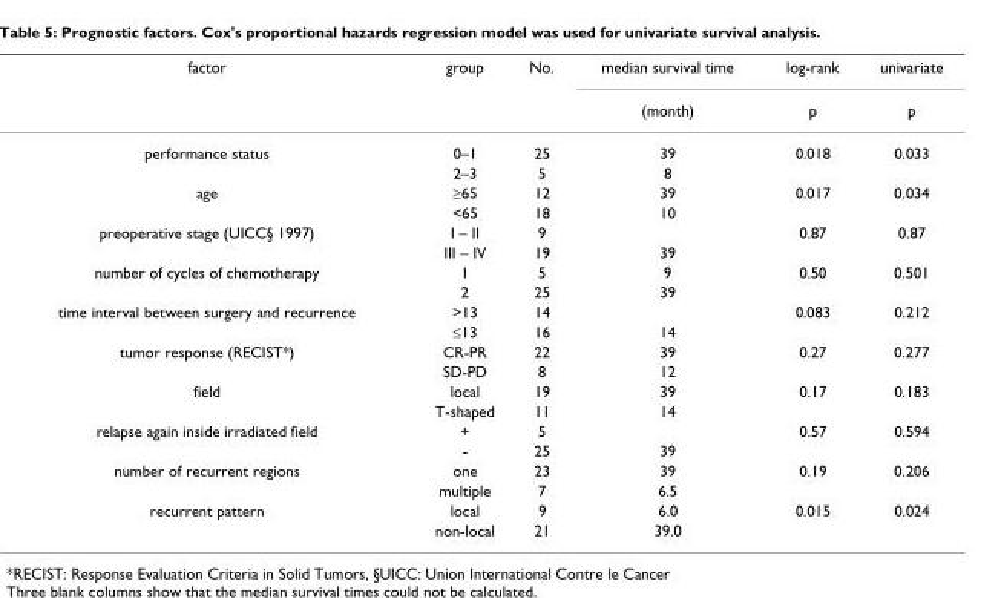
<table><thead><tr><td rowspan="2">factor</td><td rowspan="2">group</td><td rowspan="2">No.</td><td rowspan="2">median survival time (month)</td><td rowspan="2">log-rank p</td><td rowspan="2">univariate p</td></tr><tr></tr></thead><tbody><tr><td rowspan="2">performance status</td><td>0–1</td><td>25</td><td>39</td><td>0.018</td><td>0.033</td></tr><tr><td>2–3</td><td>5</td><td>8</td><td></td><td></td></tr><tr><td rowspan="2">age</td><td>≥65</td><td>12</td><td>39</td><td>0.017</td><td>0.034</td></tr><tr><td>&lt;65</td><td>18</td><td>10</td><td></td><td></td></tr><tr><td rowspan="2">preoperative stage (UICC§ 1997)</td><td>I – II</td><td>9</td><td></td><td>0.87</td><td>0.87</td></tr><tr><td>III – IV</td><td>19</td><td>39</td><td></td><td></td></tr><tr><td rowspan="2">number of cycles of chemotherapy</td><td>1</td><td>5</td><td>9</td><td>0.50</td><td>0.501</td></tr><tr><td>2</td><td>25</td><td>39</td><td></td><td></td></tr><tr><td rowspan="2">time interval between surgery and recurrence</td><td>&gt;13</td><td>14</td><td></td><td>0.083</td><td>0.212</td></tr><tr><td>≤13</td><td>16</td><td>14</td><td></td><td></td></tr><tr><td rowspan="2">tumor response (RECIST*)</td><td>CR-PR</td><td>22</td><td>39</td><td>0.27</td><td>0.277</td></tr><tr><td>SD-PD</td><td>8</td><td>12</td><td></td><td></td></tr><tr><td rowspan="2">field</td><td>local</td><td>19</td><td>39</td><td>0.17</td><td>0.183</td></tr><tr><td>T-shaped</td><td>11</td><td>14</td><td></td><td></td></tr><tr><td rowspan="2">relapse again inside irradiated field</td><td>+</td><td>5</td><td></td><td>0.57</td><td>0.594</td></tr><tr><td>-</td><td>25</td><td>39</td><td></td><td></td></tr><tr><td rowspan="2">number of recurrent regions</td><td>one</td><td>23</td><td>39</td><td>0.19</td><td>0.206</td></tr><tr><td>multiple</td><td>7</td><td>6.5</td><td></td><td></td></tr><tr><td rowspan="2">recurrent pattern</td><td>local</td><td>9</td><td>6.0</td><td>0.015</td><td>0.024</td></tr><tr><td>non-local</td><td>21</td><td>39.0</td><td></td><td></td></tr></tbody></table>